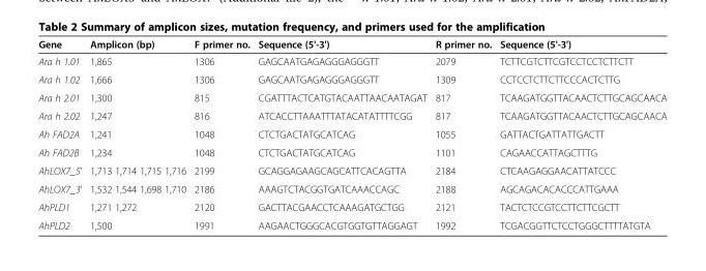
<table><thead><tr><td>Gene</td><td>Amplicon (bp)</td><td>F primer no.</td><td>Sequence (5&#x27;-3&#x27;)</td><td>R primer no.</td><td>Sequence (5&#x27;-3&#x27;)</td></tr></thead><tbody><tr><td>Ara h 1.01</td><td>1,865</td><td>1306</td><td>GAGCAATGAGAGGGAGGGTT</td><td>2079</td><td>TCTTCGTCTTCGTCCTCCTCTTCTT</td></tr><tr><td>Ara h 1.02</td><td>1,666</td><td>1306</td><td>GAGCAATGAGAGGGAGGGTT</td><td>1309</td><td>CCTCCTCTTCTTCCCACTCTTG</td></tr><tr><td>Ara h 2.01</td><td>1,300</td><td>815</td><td>CGATTTACTCATGTACAATTAACAATAGAT</td><td>817</td><td>TCAAGATGGTTACAACTCTTGCAGCAACA</td></tr><tr><td>Ara h 2.02</td><td>1,247</td><td>816</td><td>ATCACCTTAAATTTATACATATTTTCGG</td><td>817</td><td>TCAAGATGGTTACAACTCTTGCAGCAACA</td></tr><tr><td>Ah FAD2A</td><td>1,241</td><td>1048</td><td>CTCTGACTATGCATCAG</td><td>1055</td><td>GATTACTGATTATTGACTT</td></tr><tr><td>Ah FAD2B</td><td>1,234</td><td>1048</td><td>CTCTGACTATGCATCAG</td><td>1101</td><td>CAGAACCATTAGCTTTG</td></tr><tr><td>AhLOX7_5&#x27;</td><td>1,713 1,714 1,715 1,716</td><td>2199</td><td>GCAGGAGAAGCAGCATTCACAGTTA</td><td>2184</td><td>CTCAAGAGGAACATTATCCC</td></tr><tr><td>AhLOX7_3&#x27;</td><td>1,532 1,544 1,698 1,710</td><td>2186</td><td>AAAGTCTACGGTGATCAAACCAGC</td><td>2188</td><td>AGCAGACACACCCATTGAAA</td></tr><tr><td>AhPLD1</td><td>1,271 1,272</td><td>2120</td><td>GACTTACGAACCTCAAAGATGCTGG</td><td>2121</td><td>TACTCTCCGTCCTTCTTCGCTT</td></tr><tr><td>AhPLD2</td><td>1,500</td><td>1991</td><td>AAGAACTGGGCACGTGGTGTTAGGAGT</td><td>1992</td><td>TCGACGGTTCTCCTGGGCTTTTATGTA</td></tr></tbody></table>